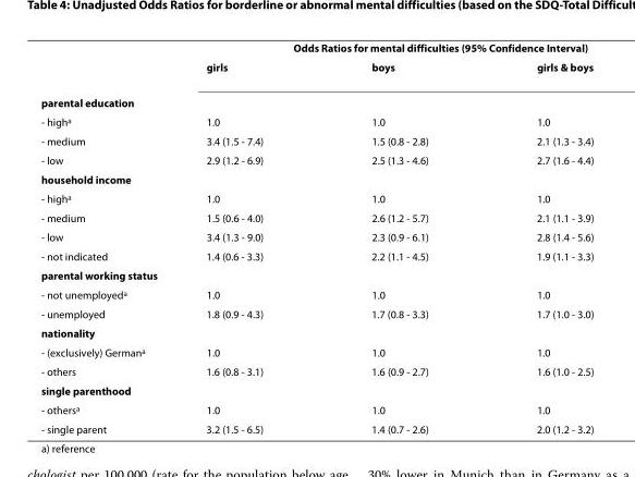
<table><thead><tr><td rowspan="2"></td><td colspan="3">Odds Ratios for mental difficulties (95% Confidence Interval)</td></tr><tr><td>girls</td><td>boys</td><td>girls &amp; boys</td></tr></thead><tbody><tr><td colspan="4">parental education</td></tr><tr><td>- high<sup>a</sup></td><td>1.0</td><td>1.0</td><td>1.0</td></tr><tr><td>- medium</td><td>3.4 (1.5 - 7.4)</td><td>1.5 (0.8 - 2.8)</td><td>2.1 (1.3 - 3.4)</td></tr><tr><td>- low</td><td>2.9 (1.2 - 6.9)</td><td>2.5 (1.3 - 4.6)</td><td>2.7 (1.6 - 4.4)</td></tr><tr><td colspan="4">household income</td></tr><tr><td>- high<sup>a</sup></td><td>1.0</td><td>1.0</td><td>1.0</td></tr><tr><td>- medium</td><td>1.5 (0.6 - 4.0)</td><td>2.6 (1.2 - 5.7)</td><td>2.1 (1.1 - 3.9)</td></tr><tr><td>- low</td><td>3.4 (1.3 - 9.0)</td><td>2.3 (0.9 - 6.1)</td><td>2.8 (1.4 - 5.6)</td></tr><tr><td>- not indicated</td><td>1.4 (0.6 - 3.3)</td><td>2.2 (1.1 - 4.5)</td><td>1.9 (1.1 - 3.3)</td></tr><tr><td colspan="4">parental working status</td></tr><tr><td>- not unemployed<sup>a</sup></td><td>1.0</td><td>1.0</td><td>1.0</td></tr><tr><td>- unemployed</td><td>1.8 (0.9 - 4.3)</td><td>1.7 (0.8 - 3.3)</td><td>1.7 (1.0 - 3.0)</td></tr><tr><td colspan="4">nationality</td></tr><tr><td>- (exclusively) German<sup>a</sup></td><td>1.0</td><td>1.0</td><td>1.0</td></tr><tr><td>- others</td><td>1.6 (0.8 - 3.1)</td><td>1.6 (0.9 - 2.7)</td><td>1.6 (1.0 - 2.5)</td></tr><tr><td colspan="4">single parenthood</td></tr><tr><td>- others<sup>a</sup></td><td>1.0</td><td>1.0</td><td>1.0</td></tr><tr><td>- single parent</td><td>3.2 (1.5 - 6.5)</td><td>1.4 (0.7 - 2.6)</td><td>2.0 (1.2 - 3.2)</td></tr></tbody></table>